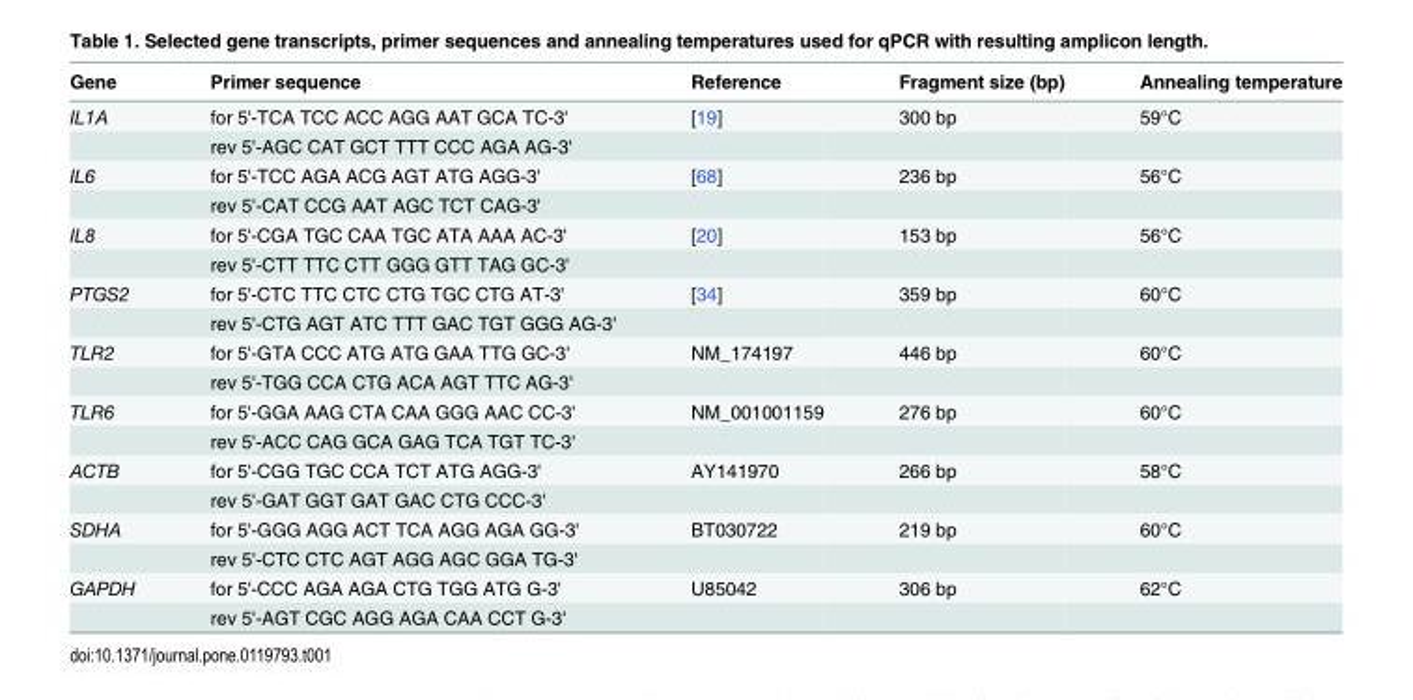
<table><thead><tr><td>Gene</td><td>Primer sequence</td><td>Reference</td><td>Fragment size (bp)</td><td>Annealing temperature</td></tr></thead><tbody><tr><td rowspan="2">IL1A</td><td>for 5&#x27;-TCA TCC ACC AGG AAT GCA TC-3&#x27;</td><td>[19]</td><td>300 bp</td><td>59°C</td></tr><tr><td>rev 5&#x27;-AGC CAT GCT TTT CCC AGA AG-3&#x27;</td><td></td><td></td><td></td></tr><tr><td rowspan="2">IL6</td><td>for 5&#x27;-TCC AGA ACG AGT ATG AGG-3&#x27;</td><td>[68]</td><td>236 bp</td><td>56°C</td></tr><tr><td>rev 5&#x27;-CAT CCG AAT AGC TCT CAG-3&#x27;</td><td></td><td></td><td></td></tr><tr><td rowspan="2">IL8</td><td>for 5&#x27;-CGA TGC CAA TGC ATA AAA AC-3&#x27;</td><td>[20]</td><td>153 bp</td><td>56°C</td></tr><tr><td>rev 5&#x27;-CTT TTC CTT GGG GTT TAG GC-3&#x27;</td><td></td><td></td><td></td></tr><tr><td rowspan="2">PTGS2</td><td>for 5&#x27;-CTC TTC CTC CTG TGC CTG AT-3&#x27;</td><td>[34]</td><td>359 bp</td><td>60°C</td></tr><tr><td>rev 5&#x27;-CTG AGT ATC TTT GAC TGT GGG AG-3&#x27;</td><td></td><td></td><td></td></tr><tr><td rowspan="2">TLR2</td><td>for 5&#x27;-GTA CCC ATG ATG GAA TTG GC-3&#x27;</td><td>NM_174197</td><td>446 bp</td><td>60°C</td></tr><tr><td>rev 5&#x27;-TGG CCA CTG ACA AGT TTC AG-3&#x27;</td><td></td><td></td><td></td></tr><tr><td rowspan="2">TLR6</td><td>for 5&#x27;-GGA AAG CTA CAA GGG AAC CC-3&#x27;</td><td>NM_001001159</td><td>276 bp</td><td>60°C</td></tr><tr><td>rev 5&#x27;-ACC CAG GCA GAG TCA TGT TC-3&#x27;</td><td></td><td></td><td></td></tr><tr><td rowspan="2">ACTB</td><td>for 5&#x27;-CGG TGC CCA TCT ATG AGG-3&#x27;</td><td>AY141970</td><td>266 bp</td><td>58°C</td></tr><tr><td>rev 5&#x27;-GAT GGT GAT GAC CTG CCC-3&#x27;</td><td></td><td></td><td></td></tr><tr><td rowspan="2">SDHA</td><td>for 5&#x27;-GGG AGG ACT TCA AGG AGA GG-3&#x27;</td><td>BT030722</td><td>219 bp</td><td>60°C</td></tr><tr><td>rev 5&#x27;-CTC CTC AGT AGG AGC GGA TG-3&#x27;</td><td></td><td></td><td></td></tr><tr><td rowspan="2">GAPDH</td><td>for 5&#x27;-CCC AGA AGA CTG TGG ATG G-3&#x27;</td><td>U85042</td><td>306 bp</td><td>62°C</td></tr><tr><td>rev 5&#x27;-AGT CGC AGG AGA CAA CCT G-3&#x27;</td><td></td><td></td><td></td></tr></tbody></table>